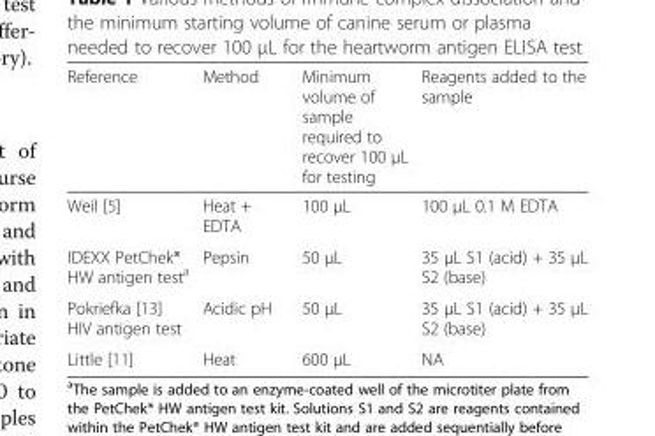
<table><thead><tr><td>Reference</td><td>Method</td><td>Minimum volume of sample required to recover 100 μL for testing</td><td>Reagents added to the sample</td></tr></thead><tbody><tr><td>Weil [5]</td><td>Heat + EDTA</td><td>100 μL</td><td>100 μL 0.1 M EDTA</td></tr><tr><td>IDEXX PetChek® HW antigen test<sup>a</sup></td><td>Pepsin</td><td>50 μL</td><td>35 μL S1 (acid) + 35 μL S2 (base)</td></tr><tr><td>Pokriefka [13] HIV antigen test</td><td>Acidic pH</td><td>50 μL</td><td>35 μL S1 (acid) + 35 μL S2 (base)</td></tr><tr><td>Little [11]</td><td>Heat</td><td>600 μL</td><td>NA</td></tr></tbody></table>